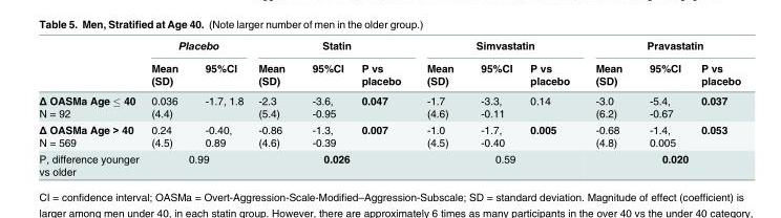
<table><thead><tr><td rowspan="2"></td><td colspan="2">Placebo</td><td colspan="3">Statin</td><td colspan="3">Simvastatin</td><td colspan="3">Pravastatin</td></tr><tr><td>Mean (SD)</td><td>95%CI</td><td>Mean (SD)</td><td>95%CI</td><td>P vs placebo</td><td>Mean (SD)</td><td>95%CI</td><td>P vs placebo</td><td>Mean (SD)</td><td>95%CI</td><td>P vs placebo</td></tr></thead><tbody><tr><td>Δ OASMa Age ≤ 40 N = 92</td><td>0.036 (4.4)</td><td>-1.7, 1.8</td><td>-2.3 (5.4)</td><td>-3.6, -0.95</td><td>0.047</td><td>-1.7 (4.6)</td><td>-3.3, -0.11</td><td>0.14</td><td>-3.0 (6.2)</td><td>-5.4, -0.67</td><td>0.037</td></tr><tr><td>Δ OASMa Age &gt; 40 N = 569</td><td>0.24 (4.5)</td><td>-0.40, 0.89</td><td>-0.86 (4.6)</td><td>-1.3, -0.39</td><td>0.007</td><td>-1.0 (4.5)</td><td>-1.7, -0.40</td><td>0.005</td><td>-0.68 (4.8)</td><td>-1.4, 0.005</td><td>0.053</td></tr><tr><td>P, difference younger vs older</td><td colspan="2">0.99</td><td colspan="3">0.026</td><td colspan="3">0.59</td><td colspan="3">0.020</td></tr></tbody></table>